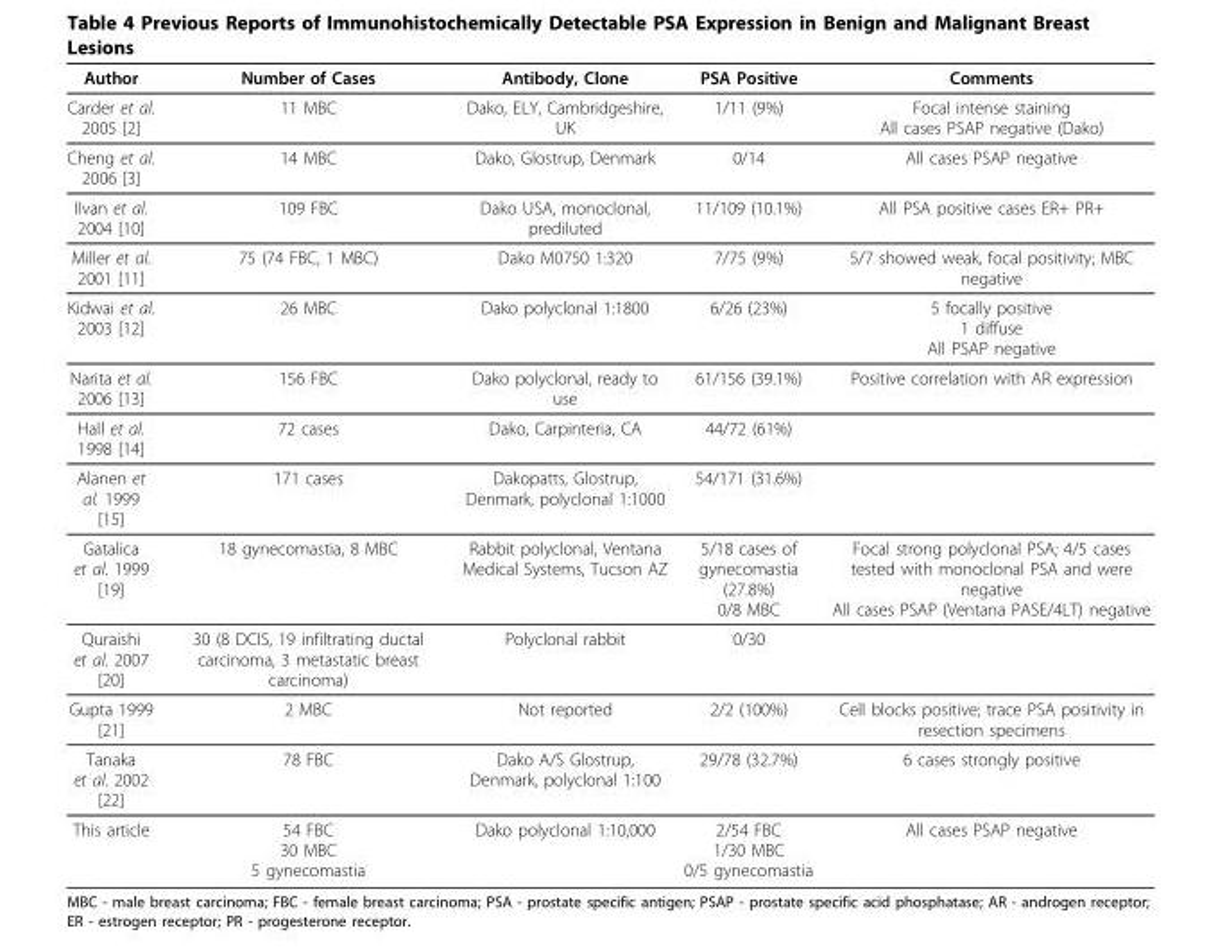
<table><thead><tr><td>Author</td><td>Number of Cases</td><td>Antibody, Clone</td><td>PSA Positive</td><td>Comments</td></tr></thead><tbody><tr><td>Carder et al. 2005 [2]</td><td>11 MBC</td><td>Dako, ELY, Cambridgeshire, UK</td><td>1/11 (9%)</td><td>Focal intense staining All cases PSAP negative (Dako)</td></tr><tr><td>Cheng et al. 2006 [3]</td><td>14 MBC</td><td>Dako, Glostrup, Denmark</td><td>0/14</td><td>All cases PSAP negative</td></tr><tr><td>Ilvan et al. 2004 [10]</td><td>109 FBC</td><td>Dako USA, monoclonal, prediluted</td><td>11/109 (10.1%)</td><td>All PSA positive cases ER+ PR+</td></tr><tr><td>Miller et al. 2001 [11]</td><td>75 (74 FBC, 1 MBC)</td><td>Dako M0750 1:320</td><td>7/75 (9%)</td><td>5/7 showed weak, focal positivity; MBC negative</td></tr><tr><td>Kidwai et al. 2003 [12]</td><td>26 MBC</td><td>Dako polyclonal 1:1800</td><td>6/26 (23%)</td><td>5 focally positive 1 diffuse All PSAP negative</td></tr><tr><td>Narita et al. 2006 [13]</td><td>156 FBC</td><td>Dako polyclonal, ready to use</td><td>61/156 (39.1%)</td><td>Positive correlation with AR expression</td></tr><tr><td>Hall et al. 1998 [14]</td><td>72 cases</td><td>Dako, Carpinteria, CA</td><td>44/72 (61%)</td><td></td></tr><tr><td>Alanen et al. 1999 [15]</td><td>171 cases</td><td>Dakopatts, Glostrup, Denmark, polyclonal 1:1000</td><td>54/171 (31.6%)</td><td></td></tr><tr><td>Gatalica et al. 1999 [19]</td><td>18 gynecomastia, 8 MBC</td><td>Rabbit polyclonal, Ventana Medical Systems, Tucson AZ</td><td>5/18 cases of gynecomastia (27.8%) 0/8 MBC</td><td>Focal strong polyclonal PSA; 4/5 cases tested with monoclonal PSA and were negative All cases PSAP (Ventana PASE/4LT) negative</td></tr><tr><td>Quraishi et al. 2007 [20]</td><td>30 (8 DCIS, 19 infiltrating ductal carcinoma, 3 metastatic breast carcinoma)</td><td>Polyclonal rabbit</td><td>0/30</td><td></td></tr><tr><td>Gupta 1999 [21]</td><td>2 MBC</td><td>Not reported</td><td>2/2 (100%)</td><td>Cell blocks positive; trace PSA positivity in resection specimens</td></tr><tr><td>Tanaka et al. 2002 [22]</td><td>78 FBC</td><td>Dako A/S Glostrup, Denmark, polyclonal 1:100</td><td>29/78 (32.7%)</td><td>6 cases strongly positive</td></tr><tr><td>This article</td><td>54 FBC 30 MBC 5 gynecomastia</td><td>Dako polyclonal 1:10,000</td><td>2/54 FBC 1/30 MBC 0/5 gynecomastia</td><td>All cases PSAP negative</td></tr></tbody></table>